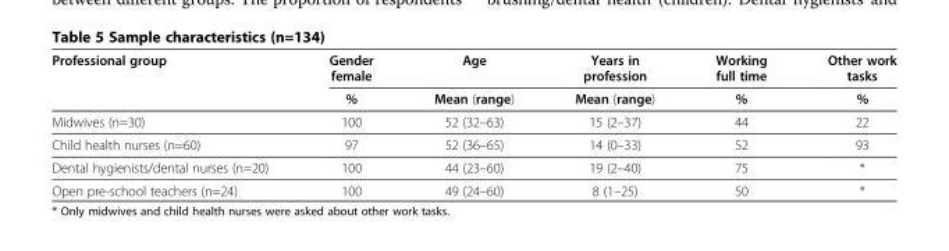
<table><thead><tr><td rowspan="2">Professional group</td><td rowspan="2">Gender female %</td><td rowspan="2">Age Mean (range)</td><td rowspan="2">Years in profession Mean (range)</td><td rowspan="2">Working full time %</td><td rowspan="2">Other work tasks %</td></tr><tr></tr></thead><tbody><tr><td>Midwives (n=30)</td><td>100</td><td>52 (32–63)</td><td>15 (2–37)</td><td>44</td><td>22</td></tr><tr><td>Child health nurses (n=60)</td><td>97</td><td>52 (36–65)</td><td>14 (0–33)</td><td>52</td><td>93</td></tr><tr><td>Dental hygienists/dental nurses (n=20)</td><td>100</td><td>44 (23–60)</td><td>19 (2–40)</td><td>75</td><td>*</td></tr><tr><td>Open pre-school teachers (n=24)</td><td>100</td><td>49 (24–60)</td><td>8 (1–25)</td><td>50</td><td>*</td></tr></tbody></table>